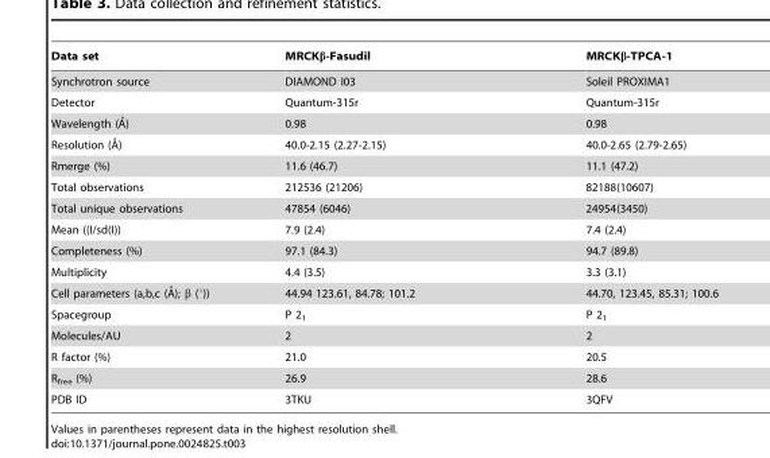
<table><thead><tr><td>Data set</td><td>MRCKβ-Fasudil</td><td>MRCKβ-TPCA-1</td></tr></thead><tbody><tr><td>Synchrotron source</td><td>DIAMOND I03</td><td>Soleil PROXIMA1</td></tr><tr><td>Detector</td><td>Quantum-315r</td><td>Quantum-315r</td></tr><tr><td>Wavelength (A˚)</td><td>0.98</td><td>0.98</td></tr><tr><td>Resolution (A˚)</td><td>40.0-2.15 (2.27-2.15)</td><td>40.0-2.65 (2.79-2.65)</td></tr><tr><td>Rmerge (%)</td><td>11.6 (46.7)</td><td>11.1 (47.2)</td></tr><tr><td>Total observations</td><td>212536 (21206)</td><td>82188(10607)</td></tr><tr><td>Total unique observations</td><td>47854 (6046)</td><td>24954(3450)</td></tr><tr><td>Mean ((I/sd(I))</td><td>7.9 (2.4)</td><td>7.4 (2.4)</td></tr><tr><td>Completeness (%)</td><td>97.1 (84.3)</td><td>94.7 (89.8)</td></tr><tr><td>Multiplicity</td><td>4.4 (3.5)</td><td>3.3 (3.1)</td></tr><tr><td>Cell parameters (a,b,c (A˚); b (u))</td><td>44.94 123.61, 84.78; 101.2</td><td>44.70, 123.45, 85.31; 100.6</td></tr><tr><td>Spacegroup</td><td>P 2<sub>1</sub></td><td>P 2<sub>1</sub></td></tr><tr><td>Molecules/AU</td><td>2</td><td>2</td></tr><tr><td>R factor (%)</td><td>21.0</td><td>20.5</td></tr><tr><td>R<sub>free</sub> (%)</td><td>26.9</td><td>28.6</td></tr><tr><td>PDB ID</td><td>3TKU</td><td>3QFV</td></tr></tbody></table>